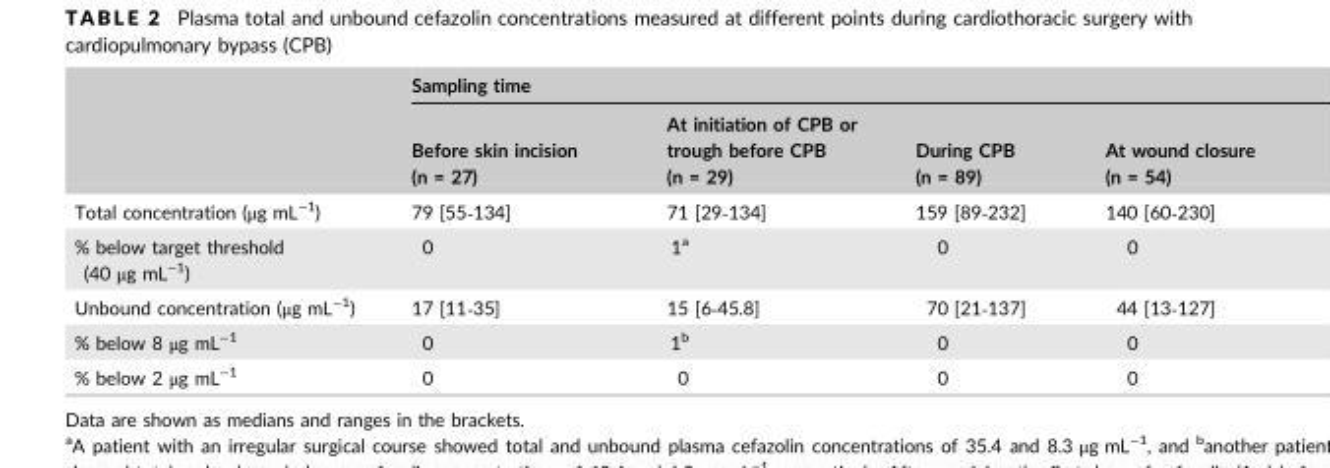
<table><thead><tr><td rowspan="2"></td><td colspan="4">Sampling time</td></tr><tr><td>Before skin incision (n = 27)</td><td>At initiation of CPB or trough before CPB (n = 29)</td><td>During CPB (n = 89)</td><td>At wound closure (n = 54)</td></tr></thead><tbody><tr><td>Total concentration (μg mL<sup>−1</sup>)</td><td>79 [55‐134]</td><td>71 [29‐134]</td><td>159 [89‐232]</td><td>140 [60‐230]</td></tr><tr><td>% below target threshold (40 μg mL<sup>−1</sup>)</td><td>0</td><td>1<sup>a</sup></td><td>0</td><td>0</td></tr><tr><td>Unbound concentration (μg mL<sup>−1</sup>)</td><td>17 [11‐35]</td><td>15 [6‐45.8]</td><td>70 [21‐137]</td><td>44 [13‐127]</td></tr><tr><td>% below 8 μg mL<sup>−1</sup></td><td>0</td><td>1<sup>b</sup></td><td>0</td><td>0</td></tr><tr><td>% below 2 μg mL<sup>−1</sup></td><td>0</td><td>0</td><td>0</td><td>0</td></tr></tbody></table>